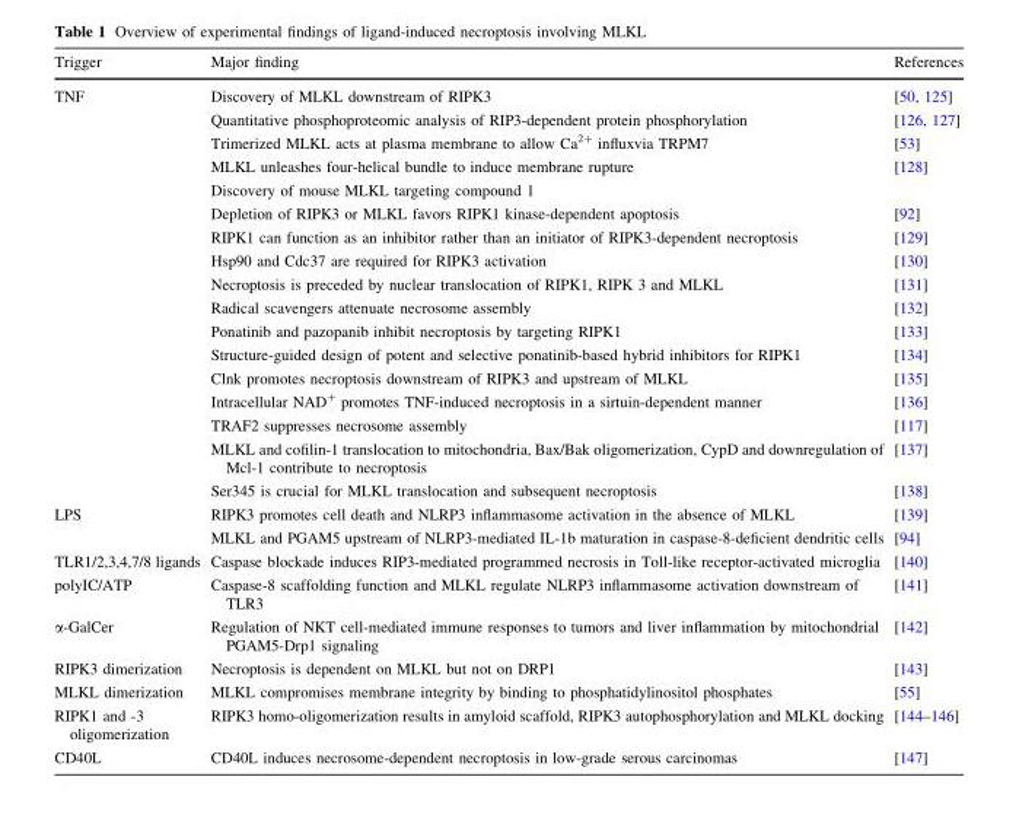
<table><thead><tr><td>Trigger</td><td>Major finding</td><td>References</td></tr></thead><tbody><tr><td rowspan="16">TNF</td><td>Discovery of MLKL downstream of RIPK3</td><td>[50, 125]</td></tr><tr><td>Quantitative phosphoproteomic analysis of RIP3-dependent protein phosphorylation</td><td>[126, 127]</td></tr><tr><td>Trimerized MLKL acts at plasma membrane to allow Ca<sup>2+</sup> influxvia TRPM7</td><td>[53]</td></tr><tr><td>MLKL unleashes four-helical bundle to induce membrane rupture Discovery of mouse MLKL targeting compound 1</td><td>[128]</td></tr><tr><td>Depletion of RIPK3 or MLKL favors RIPK1 kinase-dependent apoptosis</td><td>[92]</td></tr><tr><td>RIPK1 can function as an inhibitor rather than an initiator of RIPK3-dependent necroptosis</td><td>[129]</td></tr><tr><td>Hsp90 and Cdc37 are required for RIPK3 activation</td><td>[130]</td></tr><tr><td>Necroptosis is preceded by nuclear translocation of RIPK1, RIPK 3 and MLKL</td><td>[131]</td></tr><tr><td>Radical scavengers attenuate necrosome assembly</td><td>[132]</td></tr><tr><td>Ponatinib and pazopanib inhibit necroptosis by targeting RIPK1</td><td>[133]</td></tr><tr><td>Structure-guided design of potent and selective ponatinib-based hybrid inhibitors for RIPK1</td><td>[134]</td></tr><tr><td>Clnk promotes necroptosis downstream of RIPK3 and upstream of MLKL</td><td>[135]</td></tr><tr><td>Intracellular NAD<sup>+</sup> promotes TNF-induced necroptosis in a sirtuin-dependent manner</td><td>[136]</td></tr><tr><td>TRAF2 suppresses necrosome assembly</td><td>[117]</td></tr><tr><td>MLKL and cofilin-1 translocation to mitochondria, Bax/Bak oligomerization, CypD and downregulation of Mcl-1 contribute to necroptosis</td><td>[137]</td></tr><tr><td>Ser345 is crucial for MLKL translocation and subsequent necroptosis</td><td>[138]</td></tr><tr><td rowspan="2">LPS</td><td>RIPK3 promotes cell death and NLRP3 inflammasome activation in the absence of MLKL</td><td>[139]</td></tr><tr><td>MLKL and PGAM5 upstream of NLRP3-mediated IL-1b maturation in caspase-8-deficient dendritic cells</td><td>[94]</td></tr><tr><td>TLR1/2,3,4,7/8 ligands</td><td>Caspase blockade induces RIP3-mediated programmed necrosis in Toll-like receptor-activated microglia</td><td>[140]</td></tr><tr><td>polyIC/ATP</td><td>Caspase-8 scaffolding function and MLKL regulate NLRP3 inflammasome activation downstream of TLR3</td><td>[141]</td></tr><tr><td>α-GalCer</td><td>Regulation of NKT cell-mediated immune responses to tumors and liver inflammation by mitochondrial PGAM5-Drp1 signaling</td><td>[142]</td></tr><tr><td>RIPK3 dimerization</td><td>Necroptosis is dependent on MLKL but not on DRP1</td><td>[143]</td></tr><tr><td>MLKL dimerization</td><td>MLKL compromises membrane integrity by binding to phosphatidylinositol phosphates</td><td>[55]</td></tr><tr><td>RIPK1 and -3 oligomerization</td><td>RIPK3 homo-oligomerization results in amyloid scaffold, RIPK3 autophosphorylation and MLKL docking</td><td>[144–146]</td></tr><tr><td>CD40L</td><td>CD40L induces necrosome-dependent necroptosis in low-grade serous carcinomas</td><td>[147]</td></tr></tbody></table>